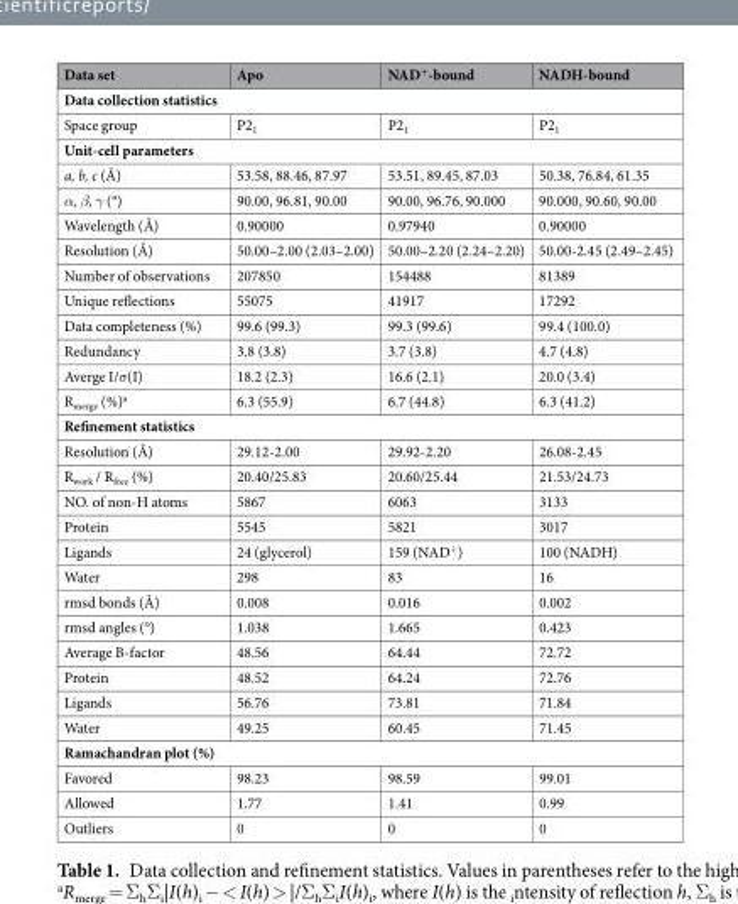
<table><thead><tr><td>Data set</td><td>Apo</td><td>NAD<sup>+</sup>-bound</td><td>NADH-bound</td></tr></thead><tbody><tr><td colspan="4">Data collection statistics</td></tr><tr><td>Space group</td><td>P2<sub>1</sub></td><td>P2<sub>1</sub></td><td>P2<sub>1</sub></td></tr><tr><td colspan="4">Unit-cell parameters</td></tr><tr><td>a, b, c (Å)</td><td>53.58, 88.46, 87.97</td><td>53.51, 89.45, 87.03</td><td>50.38, 76.84, 61.35</td></tr><tr><td>α, β, γ (°)</td><td>90.00, 96.81, 90.00</td><td>90.00, 96.76, 90.000</td><td>90.000, 90.60, 90.00</td></tr><tr><td>Wavelength (Å)</td><td>0.90000</td><td>0.97940</td><td>0.90000</td></tr><tr><td>Resolution (Å)</td><td>50.00–2.00 (2.03–2.00)</td><td>50.00–2.20 (2.24–2.20)</td><td>50.00-2.45 (2.49–2.45)</td></tr><tr><td>Number of observations</td><td>207850</td><td>154488</td><td>81389</td></tr><tr><td>Unique reflections</td><td>55075</td><td>41917</td><td>17292</td></tr><tr><td>Data completeness (%)</td><td>99.6 (99.3)</td><td>99.3 (99.6)</td><td>99.4 (100.0)</td></tr><tr><td>Redundancy</td><td>3.8 (3.8)</td><td>3.7 (3.8)</td><td>4.7 (4.8)</td></tr><tr><td>Averge I/σ(I)</td><td>18.2 (2.3)</td><td>16.6 (2.1)</td><td>20.0 (3.4)</td></tr><tr><td>R<sub>merge</sub> (%)<sup>a</sup></td><td>6.3 (55.9)</td><td>6.7 (44.8)</td><td>6.3 (41.2)</td></tr><tr><td colspan="4">Refinement statistics</td></tr><tr><td>Resolution (Å)</td><td>29.12-2.00</td><td>29.92-2.20</td><td>26.08-2.45</td></tr><tr><td>R<sub>work</sub> / R<sub>free</sub> (%)</td><td>20.40/25.83</td><td>20.60/25.44</td><td>21.53/24.73</td></tr><tr><td>NO. of non-H atoms</td><td>5867</td><td>6063</td><td>3133</td></tr><tr><td>Protein</td><td>5545</td><td>5821</td><td>3017</td></tr><tr><td>Ligands</td><td>24 (glycerol)</td><td>159 (NAD<sup>+</sup>)</td><td>100 (NADH)</td></tr><tr><td>Water</td><td>298</td><td>83</td><td>16</td></tr><tr><td>rmsd bonds (Å)</td><td>0.008</td><td>0.016</td><td>0.002</td></tr><tr><td>rmsd angles (°)</td><td>1.038</td><td>1.665</td><td>0.423</td></tr><tr><td>Average B-factor</td><td>48.56</td><td>64.44</td><td>72.72</td></tr><tr><td>Protein</td><td>48.52</td><td>64.24</td><td>72.76</td></tr><tr><td>Ligands</td><td>56.76</td><td>73.81</td><td>71.84</td></tr><tr><td>Water</td><td>49.25</td><td>60.45</td><td>71.45</td></tr><tr><td colspan="4">Ramachandran plot (%)</td></tr><tr><td>Favored</td><td>98.23</td><td>98.59</td><td>99.01</td></tr><tr><td>Allowed</td><td>1.77</td><td>1.41</td><td>0.99</td></tr><tr><td>Outliers</td><td>0</td><td>0</td><td>0</td></tr></tbody></table>